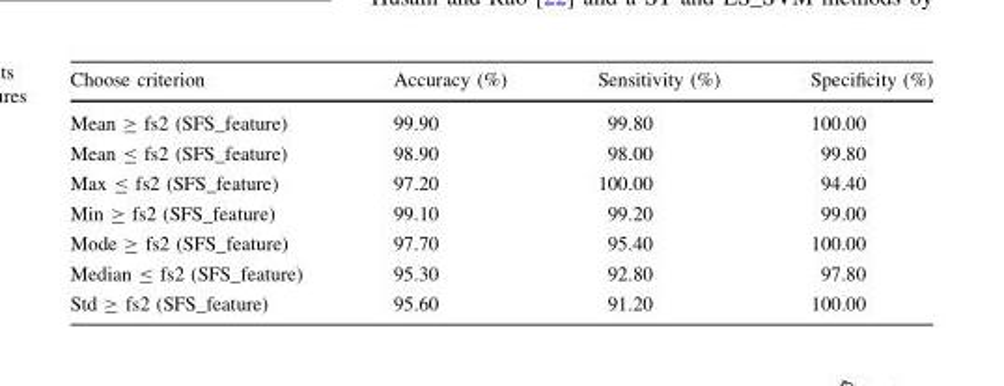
<table><thead><tr><td>Choose criterion</td><td>Accuracy (%)</td><td>Sensitivity (%)</td><td>Specificity (%)</td></tr></thead><tbody><tr><td>Mean ≥ fs2 (SFS_feature)</td><td>99.90</td><td>99.80</td><td>100.00</td></tr><tr><td>Mean ≤ fs2 (SFS_feature)</td><td>98.90</td><td>98.00</td><td>99.80</td></tr><tr><td>Max ≤ fs2 (SFS_feature)</td><td>97.20</td><td>100.00</td><td>94.40</td></tr><tr><td>Min ≥ fs2 (SFS_feature)</td><td>99.10</td><td>99.20</td><td>99.00</td></tr><tr><td>Mode ≥ fs2 (SFS_feature)</td><td>97.70</td><td>95.40</td><td>100.00</td></tr><tr><td>Median ≤ fs2 (SFS_feature)</td><td>95.30</td><td>92.80</td><td>97.80</td></tr><tr><td>Std ≥ fs2 (SFS_feature)</td><td>95.60</td><td>91.20</td><td>100.00</td></tr></tbody></table>